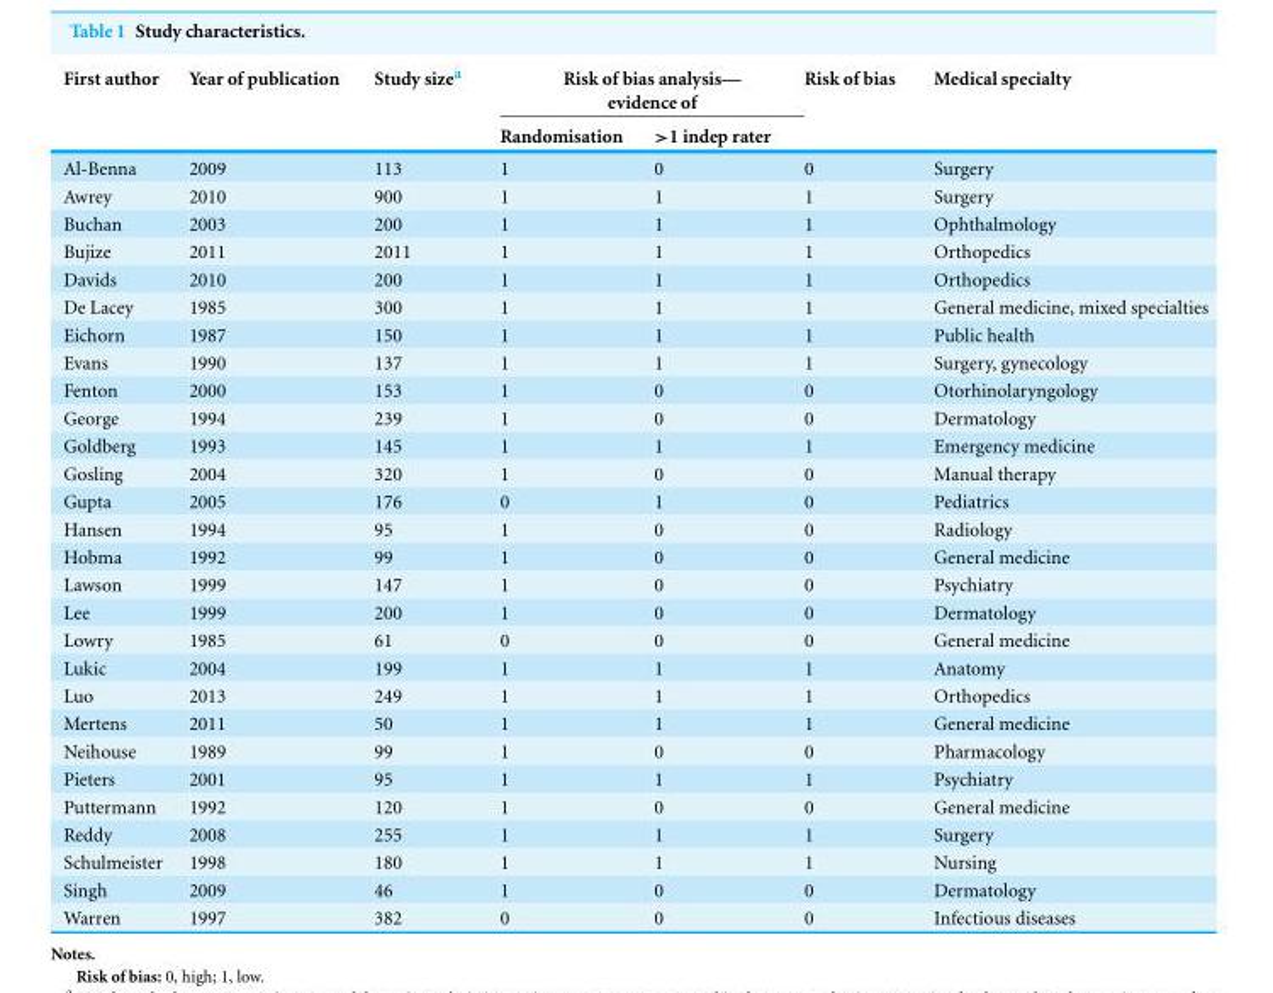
<table><thead><tr><td rowspan="2">First author</td><td rowspan="2">Year of publication</td><td rowspan="2">Study size<sup>a</sup></td><td colspan="2">Risk of bias analysis— evidence of</td><td rowspan="2">Risk of bias</td><td rowspan="2">Medical specialty</td></tr><tr><td>Randomisation</td><td>&gt;1 indep rater</td></tr></thead><tbody><tr><td>Al-Benna</td><td>2009</td><td>113</td><td>1</td><td>0</td><td>0</td><td>Surgery</td></tr><tr><td>Awrey</td><td>2010</td><td>900</td><td>1</td><td>1</td><td>1</td><td>Surgery</td></tr><tr><td>Buchan</td><td>2003</td><td>200</td><td>1</td><td>1</td><td>1</td><td>Ophthalmology</td></tr><tr><td>Bujize</td><td>2011</td><td>2011</td><td>1</td><td>1</td><td>1</td><td>Orthopedics</td></tr><tr><td>Davids</td><td>2010</td><td>200</td><td>1</td><td>1</td><td>1</td><td>Orthopedics</td></tr><tr><td>De Lacey</td><td>1985</td><td>300</td><td>1</td><td>1</td><td>1</td><td>General medicine, mixed specialties</td></tr><tr><td>Eichorn</td><td>1987</td><td>150</td><td>1</td><td>1</td><td>1</td><td>Public health</td></tr><tr><td>Evans</td><td>1990</td><td>137</td><td>1</td><td>1</td><td>1</td><td>Surgery, gynecology</td></tr><tr><td>Fenton</td><td>2000</td><td>153</td><td>1</td><td>0</td><td>0</td><td>Otorhinolaryngology</td></tr><tr><td>George</td><td>1994</td><td>239</td><td>1</td><td>0</td><td>0</td><td>Dermatology</td></tr><tr><td>Goldberg</td><td>1993</td><td>145</td><td>1</td><td>1</td><td>1</td><td>Emergency medicine</td></tr><tr><td>Gosling</td><td>2004</td><td>320</td><td>1</td><td>0</td><td>0</td><td>Manual therapy</td></tr><tr><td>Gupta</td><td>2005</td><td>176</td><td>0</td><td>1</td><td>0</td><td>Pediatrics</td></tr><tr><td>Hansen</td><td>1994</td><td>95</td><td>1</td><td>0</td><td>0</td><td>Radiology</td></tr><tr><td>Hobma</td><td>1992</td><td>99</td><td>1</td><td>0</td><td>0</td><td>General medicine</td></tr><tr><td>Lawson</td><td>1999</td><td>147</td><td>1</td><td>0</td><td>0</td><td>Psychiatry</td></tr><tr><td>Lee</td><td>1999</td><td>200</td><td>1</td><td>0</td><td>0</td><td>Dermatology</td></tr><tr><td>Lowry</td><td>1985</td><td>61</td><td>0</td><td>0</td><td>0</td><td>General medicine</td></tr><tr><td>Lukic</td><td>2004</td><td>199</td><td>1</td><td>1</td><td>1</td><td>Anatomy</td></tr><tr><td>Luo</td><td>2013</td><td>249</td><td>1</td><td>1</td><td>1</td><td>Orthopedics</td></tr><tr><td>Mertens</td><td>2011</td><td>50</td><td>1</td><td>1</td><td>1</td><td>General medicine</td></tr><tr><td>Neihouse</td><td>1989</td><td>99</td><td>1</td><td>0</td><td>0</td><td>Pharmacology</td></tr><tr><td>Pieters</td><td>2001</td><td>95</td><td>1</td><td>1</td><td>1</td><td>Psychiatry</td></tr><tr><td>Puttermann</td><td>1992</td><td>120</td><td>1</td><td>0</td><td>0</td><td>General medicine</td></tr><tr><td>Reddy</td><td>2008</td><td>255</td><td>1</td><td>1</td><td>1</td><td>Surgery</td></tr><tr><td>Schulmeister</td><td>1998</td><td>180</td><td>1</td><td>1</td><td>1</td><td>Nursing</td></tr><tr><td>Singh</td><td>2009</td><td>46</td><td>1</td><td>0</td><td>0</td><td>Dermatology</td></tr><tr><td>Warren</td><td>1997</td><td>382</td><td>0</td><td>0</td><td>0</td><td>Infectious diseases</td></tr></tbody></table>